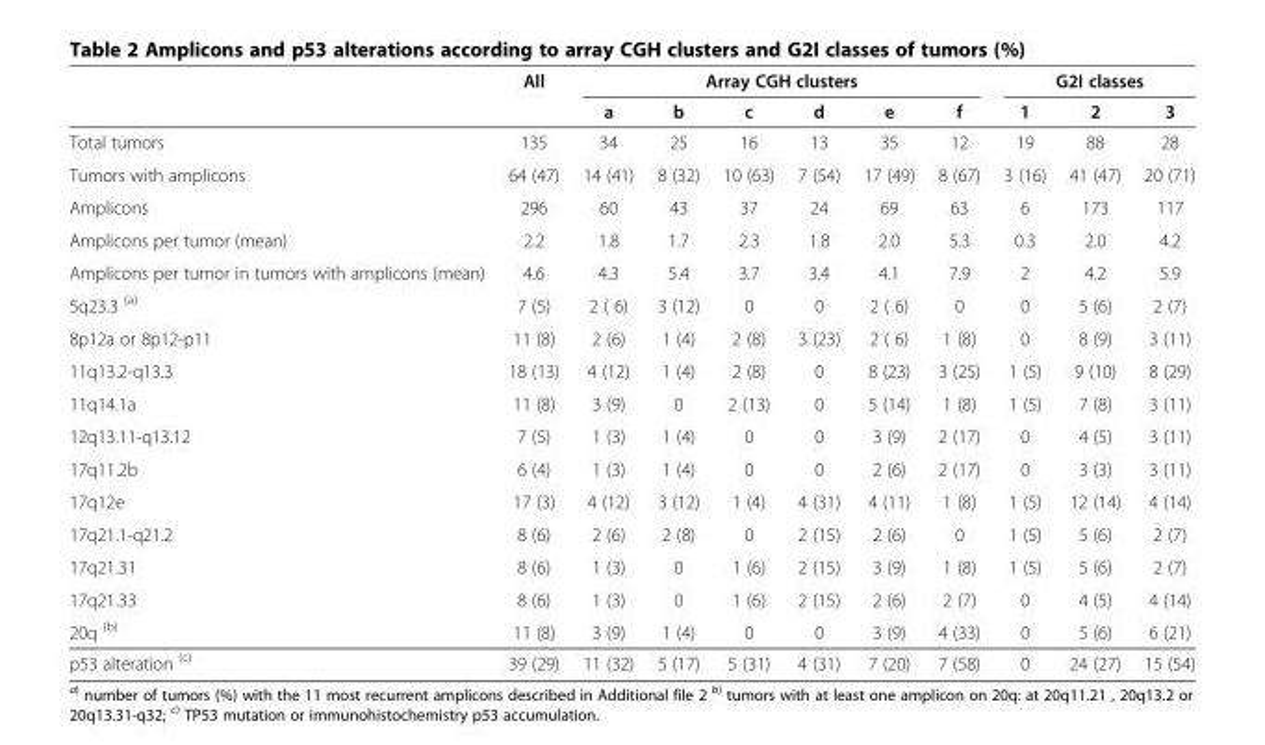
<table><thead><tr><td rowspan="2"></td><td rowspan="2">All</td><td colspan="6">Array CGH clusters</td><td colspan="3">G2I classes</td></tr><tr><td>a</td><td>b</td><td>c</td><td>d</td><td>e</td><td>f</td><td>1</td><td>2</td><td>3</td></tr></thead><tbody><tr><td>Total tumors</td><td>135</td><td>34</td><td>25</td><td>16</td><td>13</td><td>35</td><td>12</td><td>19</td><td>88</td><td>28</td></tr><tr><td>Tumors with amplicons</td><td>64 (47)</td><td>14 (41)</td><td>8 (32)</td><td>10 (63)</td><td>7 (54)</td><td>17 (49)</td><td>8 (67)</td><td>3 (16)</td><td>41 (47)</td><td>20 (71)</td></tr><tr><td>Amplicons</td><td>296</td><td>60</td><td>43</td><td>37</td><td>24</td><td>69</td><td>63</td><td>6</td><td>173</td><td>117</td></tr><tr><td>Amplicons per tumor (mean)</td><td>2.2</td><td>1.8</td><td>1.7</td><td>2.3</td><td>1.8</td><td>2.0</td><td>5.3</td><td>0.3</td><td>2.0</td><td>4.2</td></tr><tr><td>Amplicons per tumor in tumors with amplicons (mean)</td><td>4.6</td><td>4.3</td><td>5.4</td><td>3.7</td><td>3.4</td><td>4.1</td><td>7.9</td><td>2</td><td>4.2</td><td>5.9</td></tr><tr><td>5q23.3 <sup>(a)</sup></td><td>7 (5)</td><td>2 ( 6)</td><td>3 (12)</td><td>0</td><td>0</td><td>2 ( 6)</td><td>0</td><td>0</td><td>5 (6)</td><td>2 (7)</td></tr><tr><td>8p12a or 8p12-p11</td><td>11 (8)</td><td>2 (6)</td><td>1 (4)</td><td>2 (8)</td><td>3 (23)</td><td>2 ( 6)</td><td>1 (8)</td><td>0</td><td>8 (9)</td><td>3 (11)</td></tr><tr><td>11q13.2-q13.3</td><td>18 (13)</td><td>4 (12)</td><td>1 (4)</td><td>2 (8)</td><td>0</td><td>8 (23)</td><td>3 (25)</td><td>1 (5)</td><td>9 (10)</td><td>8 (29)</td></tr><tr><td>11q14.1a</td><td>11 (8)</td><td>3 (9)</td><td>0</td><td>2 (13)</td><td>0</td><td>5 (14)</td><td>1 (8)</td><td>1 (5)</td><td>7 (8)</td><td>3 (11)</td></tr><tr><td>12q13.11-q13.12</td><td>7 (5)</td><td>1 (3)</td><td>1 (4)</td><td>0</td><td>0</td><td>3 (9)</td><td>2 (17)</td><td>0</td><td>4 (5)</td><td>3 (11)</td></tr><tr><td>17q11.2b</td><td>6 (4)</td><td>1 (3)</td><td>1 (4)</td><td>0</td><td>0</td><td>2 (6)</td><td>2 (17)</td><td>0</td><td>3 (3)</td><td>3 (11)</td></tr><tr><td>17q12e</td><td>17 (3)</td><td>4 (12)</td><td>3 (12)</td><td>1 (4)</td><td>4 (31)</td><td>4 (11)</td><td>1 (8)</td><td>1 (5)</td><td>12 (14)</td><td>4 (14)</td></tr><tr><td>17q21.1-q21.2</td><td>8 (6)</td><td>2 (6)</td><td>2 (8)</td><td>0</td><td>2 (15)</td><td>2 (6)</td><td>0</td><td>1 (5)</td><td>5 (6)</td><td>2 (7)</td></tr><tr><td>17q21.31</td><td>8 (6)</td><td>1 (3)</td><td>0</td><td>1 (6)</td><td>2 (15)</td><td>3 (9)</td><td>1 (8)</td><td>1 (5)</td><td>5 (6)</td><td>2 (7)</td></tr><tr><td>17q21.33</td><td>8 (6)</td><td>1 (3)</td><td>0</td><td>1 (6)</td><td>2 (15)</td><td>2 (6)</td><td>2 (7)</td><td>0</td><td>4 (5)</td><td>4 (14)</td></tr><tr><td>20q <sup>(b)</sup></td><td>11 (8)</td><td>3 (9)</td><td>1 (4)</td><td>0</td><td>0</td><td>3 (9)</td><td>4 (33)</td><td>0</td><td>5 (6)</td><td>6 (21)</td></tr><tr><td>p53 alteration <sup>(c)</sup></td><td>39 (29)</td><td>11 (32)</td><td>5 (17)</td><td>5 (31)</td><td>4 (31)</td><td>7 (20)</td><td>7 (58)</td><td>0</td><td>24 (27)</td><td>15 (54)</td></tr></tbody></table>